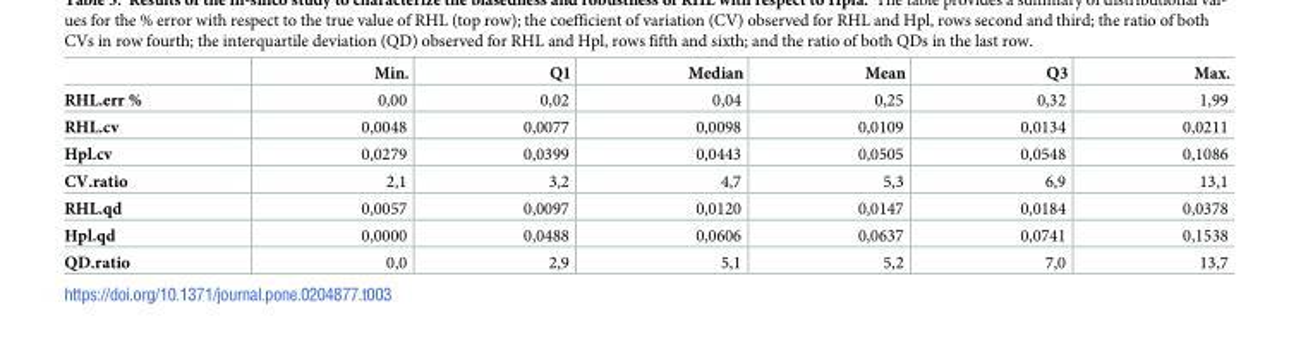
<table><thead><tr><td></td><td>Min.</td><td>Q1</td><td>Median</td><td>Mean</td><td>Q3</td><td>Max.</td></tr></thead><tbody><tr><td>RHL.err %</td><td>0,00</td><td>0,02</td><td>0,04</td><td>0,25</td><td>0,32</td><td>1,99</td></tr><tr><td>RHL.cv</td><td>0,0048</td><td>0,0077</td><td>0,0098</td><td>0,0109</td><td>0,0134</td><td>0,0211</td></tr><tr><td>Hpl.cv</td><td>0,0279</td><td>0,0399</td><td>0,0443</td><td>0,0505</td><td>0,0548</td><td>0,1086</td></tr><tr><td>CV.ratio</td><td>2,1</td><td>3,2</td><td>4,7</td><td>5,3</td><td>6,9</td><td>13,1</td></tr><tr><td>RHL.qd</td><td>0,0057</td><td>0,0097</td><td>0,0120</td><td>0,0147</td><td>0,0184</td><td>0,0378</td></tr><tr><td>Hpl.qd</td><td>0,0000</td><td>0,0488</td><td>0,0606</td><td>0,0637</td><td>0,0741</td><td>0,1538</td></tr><tr><td>QD.ratio</td><td>0,0</td><td>2,9</td><td>5,1</td><td>5,2</td><td>7,0</td><td>13,7</td></tr></tbody></table>